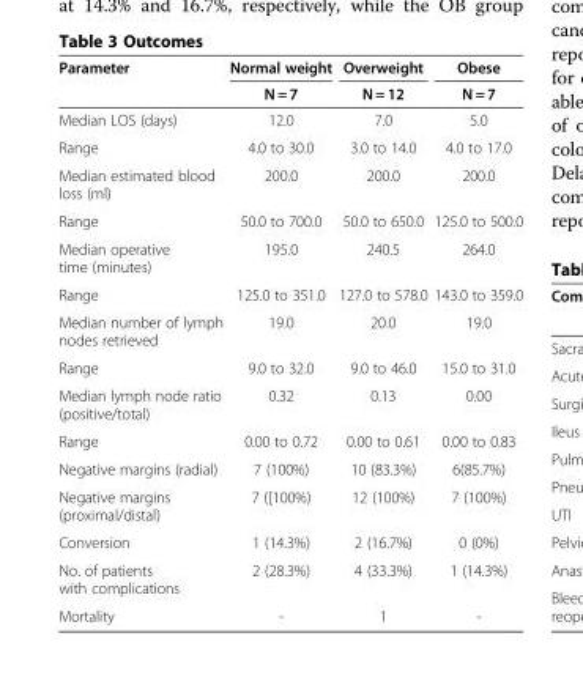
<table><thead><tr><td rowspan="2">Parameter</td><td rowspan="2">Normal weight N = 7</td><td rowspan="2">Overweight N = 12</td><td rowspan="2">Obese N = 7</td></tr><tr></tr></thead><tbody><tr><td>Median LOS (days)</td><td>12.0</td><td>7.0</td><td>5.0</td></tr><tr><td>Range</td><td>4.0 to 30.0</td><td>3.0 to 14.0</td><td>4.0 to 17.0</td></tr><tr><td>Median estimated blood loss (ml)</td><td>200.0</td><td>200.0</td><td>200.0</td></tr><tr><td>Range</td><td>50.0 to 700.0</td><td>50.0 to 650.0</td><td>125.0 to 500.0</td></tr><tr><td>Median operative time (minutes)</td><td>195.0</td><td>240.5</td><td>264.0</td></tr><tr><td>Range</td><td>125.0 to 351.0</td><td>127.0 to 578.0</td><td>143.0 to 359.0</td></tr><tr><td>Median number of lymph nodes retrieved</td><td>19.0</td><td>20.0</td><td>19.0</td></tr><tr><td>Range</td><td>9.0 to 32.0</td><td>9.0 to 46.0</td><td>15.0 to 31.0</td></tr><tr><td>Median lymph node ratio (positive/total)</td><td>0.32</td><td>0.13</td><td>0.00</td></tr><tr><td>Range</td><td>0.00 to 0.72</td><td>0.00 to 0.61</td><td>0.00 to 0.83</td></tr><tr><td>Negative margins (radial)</td><td>7 (100%)</td><td>10 (83.3%)</td><td>6(85.7%)</td></tr><tr><td>Negative margins (proximal/distal)</td><td>7 ([100%)</td><td>12 (100%)</td><td>7 (100%)</td></tr><tr><td>Conversion</td><td>1 (14.3%)</td><td>2 (16.7%)</td><td>0 (0%)</td></tr><tr><td>No. of patients with complications</td><td>2 (28.3%)</td><td>4 (33.3%)</td><td>1 (14.3%)</td></tr><tr><td>Mortality</td><td>-</td><td>1</td><td>-</td></tr></tbody></table>